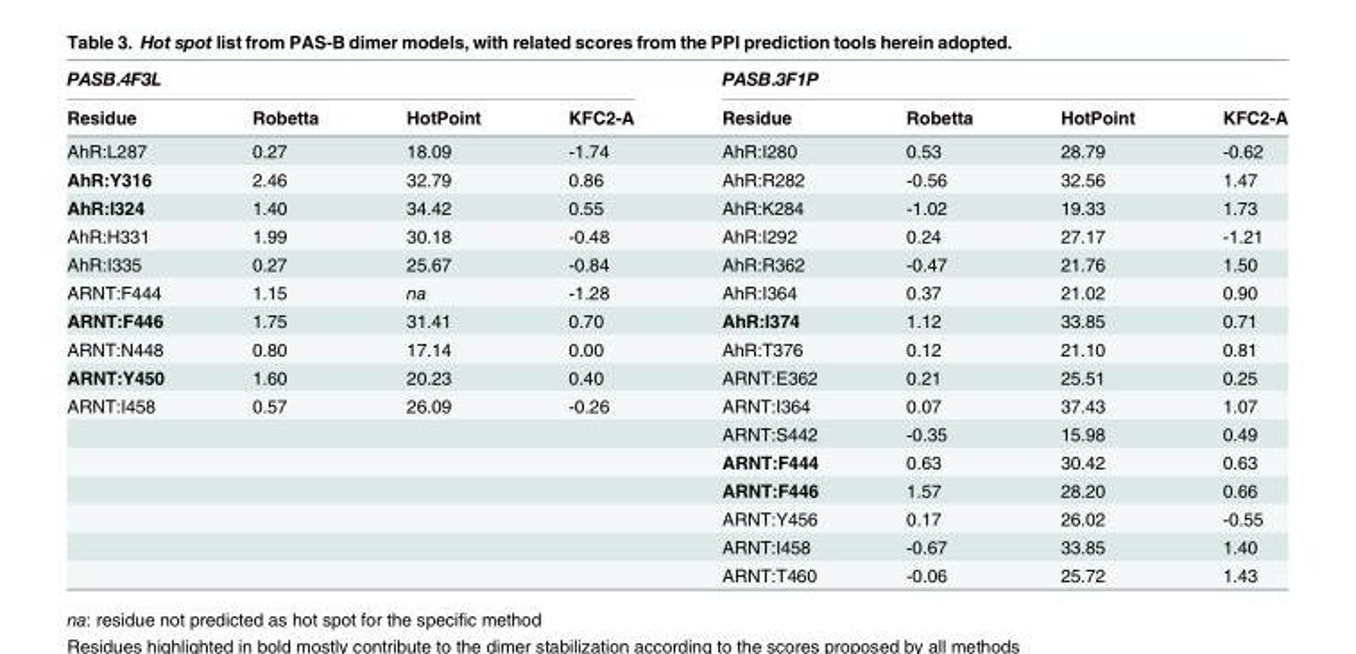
<table><thead><tr><td colspan="4">PASB.4F3L</td><td colspan="4">PASB.3F1P</td></tr><tr><td>Residue</td><td>Robetta</td><td>HotPoint</td><td>KFC2-A</td><td>Residue</td><td>Robetta</td><td>HotPoint</td><td>KFC2-A</td></tr></thead><tbody><tr><td>AhR:L287</td><td>0.27</td><td>18.09</td><td>-1.74</td><td>AhR:I280</td><td>0.53</td><td>28.79</td><td>-0.62</td></tr><tr><td>AhR:Y316</td><td>2.46</td><td>32.79</td><td>0.86</td><td>AhR:R282</td><td>-0.56</td><td>32.56</td><td>1.47</td></tr><tr><td>AhR:I324</td><td>1.40</td><td>34.42</td><td>0.55</td><td>AhR:K284</td><td>-1.02</td><td>19.33</td><td>1.73</td></tr><tr><td>AhR:H331</td><td>1.99</td><td>30.18</td><td>-0.48</td><td>AhR:I292</td><td>0.24</td><td>27.17</td><td>-1.21</td></tr><tr><td>AhR:I335</td><td>0.27</td><td>25.67</td><td>-0.84</td><td>AhR:R362</td><td>-0.47</td><td>21.76</td><td>1.50</td></tr><tr><td>ARNT:F444</td><td>1.15</td><td>na</td><td>-1.28</td><td>AhR:I364</td><td>0.37</td><td>21.02</td><td>0.90</td></tr><tr><td>ARNT:F446</td><td>1.75</td><td>31.41</td><td>0.70</td><td>AhR:I374</td><td>1.12</td><td>33.85</td><td>0.71</td></tr><tr><td>ARNT:N448</td><td>0.80</td><td>17.14</td><td>0.00</td><td>AhR:T376</td><td>0.12</td><td>21.10</td><td>0.81</td></tr><tr><td>ARNT:Y450</td><td>1.60</td><td>20.23</td><td>0.40</td><td>ARNT:E362</td><td>0.21</td><td>25.51</td><td>0.25</td></tr><tr><td rowspan="7">ARNT:I458</td><td>0.57</td><td>26.09</td><td>-0.26</td><td>ARNT:I364</td><td>0.07</td><td>37.43</td><td>1.07</td></tr><tr><td></td><td></td><td></td><td>ARNT:S442</td><td>-0.35</td><td>15.98</td><td>0.49</td></tr><tr><td></td><td></td><td></td><td>ARNT:F444</td><td>0.63</td><td>30.42</td><td>0.63</td></tr><tr><td></td><td></td><td></td><td>ARNT:F446</td><td>1.57</td><td>28.20</td><td>0.66</td></tr><tr><td></td><td></td><td></td><td>ARNT:Y456</td><td>0.17</td><td>26.02</td><td>-0.55</td></tr><tr><td></td><td></td><td></td><td>ARNT:I458</td><td>-0.67</td><td>33.85</td><td>1.40</td></tr><tr><td></td><td></td><td></td><td>ARNT:T460</td><td>-0.06</td><td>25.72</td><td>1.43</td></tr></tbody></table>